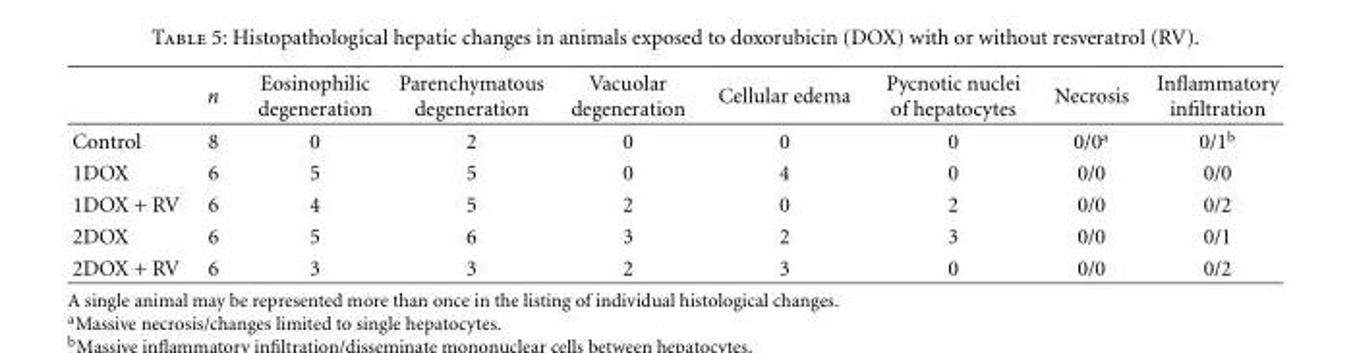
<table><thead><tr><td></td><td>n</td><td>Eosinophilic degeneration</td><td>Parenchymatous degeneration</td><td>Vacuolar degeneration</td><td>Cellular edema</td><td>Pycnotic nuclei of hepatocytes</td><td>Necrosis</td><td>Inflammatory infiltration</td></tr></thead><tbody><tr><td>Control</td><td>8</td><td>0</td><td>2</td><td>0</td><td>0</td><td>0</td><td>0/0<sup>a</sup></td><td>0/1<sup>b</sup></td></tr><tr><td>1DOX</td><td>6</td><td>5</td><td>5</td><td>0</td><td>4</td><td>0</td><td>0/0</td><td>0/0</td></tr><tr><td>1DOX + RV</td><td>6</td><td>4</td><td>5</td><td>2</td><td>0</td><td>2</td><td>0/0</td><td>0/2</td></tr><tr><td>2DOX</td><td>6</td><td>5</td><td>6</td><td>3</td><td>2</td><td>3</td><td>0/0</td><td>0/1</td></tr><tr><td>2DOX + RV</td><td>6</td><td>3</td><td>3</td><td>2</td><td>3</td><td>0</td><td>0/0</td><td>0/2</td></tr></tbody></table>